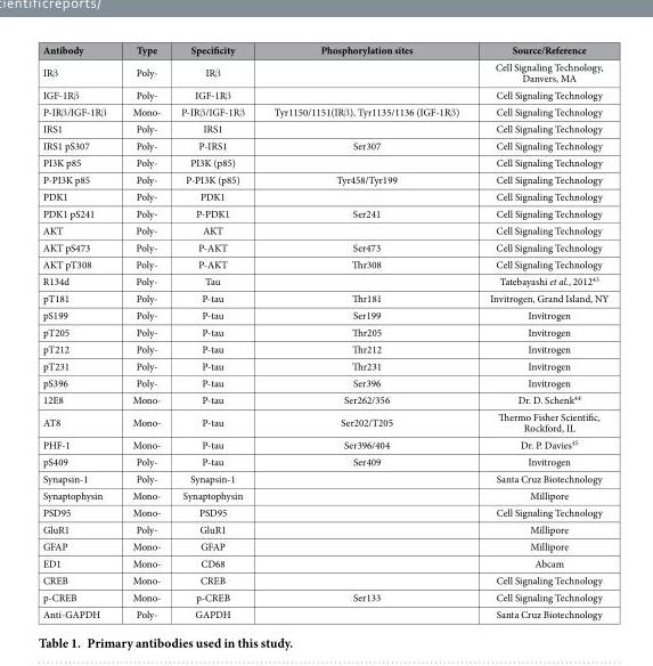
<table><thead><tr><td>Antibody</td><td>Type</td><td>Specificity</td><td>Phosphorylation sites</td><td>Source/Reference</td></tr></thead><tbody><tr><td>IRβ</td><td>Poly-</td><td>IRβ</td><td></td><td>Cell Signaling Technology, Danvers, MA</td></tr><tr><td>IGF-1Rβ</td><td>Poly-</td><td>IGF-1Rβ</td><td></td><td>Cell Signaling Technology</td></tr><tr><td>P-IRβ /IGF-1Rβ</td><td>Mono-</td><td>P-IRβ /IGF-1Rβ</td><td>Tyr1150/1151(IRβ ), Tyr1135/1136 (IGF-1Rβ )</td><td>Cell Signaling Technology</td></tr><tr><td>IRS1</td><td>Poly-</td><td>IRS1</td><td></td><td>Cell Signaling Technology</td></tr><tr><td>IRS1 pS307</td><td>Poly-</td><td>P-IRS1</td><td>Ser307</td><td>Cell Signaling Technology</td></tr><tr><td>PI3K p85</td><td>Poly-</td><td>PI3K (p85)</td><td></td><td>Cell Signaling Technology</td></tr><tr><td>P-PI3K p85</td><td>Poly-</td><td>P-PI3K (p85)</td><td>Tyr458/Tyr199</td><td>Cell Signaling Technology</td></tr><tr><td>PDK1</td><td>Poly-</td><td>PDK1</td><td></td><td>Cell Signaling Technology</td></tr><tr><td>PDK1 pS241</td><td>Poly-</td><td>P-PDK1</td><td>Ser241</td><td>Cell Signaling Technology</td></tr><tr><td>AKT</td><td>Poly-</td><td>AKT</td><td></td><td>Cell Signaling Technology</td></tr><tr><td>AKT pS473</td><td>Poly-</td><td>P-AKT</td><td>Ser473</td><td>Cell Signaling Technology</td></tr><tr><td>AKT pT308</td><td>Poly-</td><td>P-AKT</td><td>Thr308</td><td>Cell Signaling Technology</td></tr><tr><td>R134d</td><td>Poly-</td><td>Tau</td><td></td><td>Tatebayashi et al., 2012<sup>43</sup></td></tr><tr><td>pT181</td><td>Poly-</td><td>P-tau</td><td>Thr181</td><td>Invitrogen, Grand Island, NY</td></tr><tr><td>pS199</td><td>Poly-</td><td>P-tau</td><td>Ser199</td><td>Invitrogen</td></tr><tr><td>pT205</td><td>Poly-</td><td>P-tau</td><td>Thr205</td><td>Invitrogen</td></tr><tr><td>pT212</td><td>Poly-</td><td>P-tau</td><td>Thr212</td><td>Invitrogen</td></tr><tr><td>pT231</td><td>Poly-</td><td>P-tau</td><td>Thr231</td><td>Invitrogen</td></tr><tr><td>pS396</td><td>Poly-</td><td>P-tau</td><td>Ser396</td><td>Invitrogen</td></tr><tr><td>12E8</td><td>Mono-</td><td>P-tau</td><td>Ser262/356</td><td>Dr. D. Schenk<sup>44</sup></td></tr><tr><td>AT8</td><td>Mono-</td><td>P-tau</td><td>Ser202/T205</td><td>Thermo Fisher Scientific, Rockford, IL</td></tr><tr><td>PHF-1</td><td>Mono-</td><td>P-tau</td><td>Ser396/404</td><td>Dr. P. Davies<sup>45</sup></td></tr><tr><td>pS409</td><td>Poly-</td><td>P-tau</td><td>Ser409</td><td>Invitrogen</td></tr><tr><td>Synapsin-1</td><td>Poly-</td><td>Synapsin-1</td><td></td><td>Santa Cruz Biotechnology</td></tr><tr><td>Synaptophysin</td><td>Mono-</td><td>Synaptophysin</td><td></td><td>Millipore</td></tr><tr><td>PSD95</td><td>Mono-</td><td>PSD95</td><td></td><td>Cell Signaling Technology</td></tr><tr><td>GluR1</td><td>Poly-</td><td>GluR1</td><td></td><td>Millipore</td></tr><tr><td>GFAP</td><td>Mono-</td><td>GFAP</td><td></td><td>Millipore</td></tr><tr><td>ED1</td><td>Mono-</td><td>CD68</td><td></td><td>Abcam</td></tr><tr><td>CREB</td><td>Mono-</td><td>CREB</td><td></td><td>Cell Signaling Technology</td></tr><tr><td>p-CREB</td><td>Mono-</td><td>p-CREB</td><td>Ser133</td><td>Cell Signaling Technology</td></tr><tr><td>Anti-GAPDH</td><td>Poly-</td><td>GAPDH</td><td></td><td>Santa Cruz Biotechnology</td></tr></tbody></table>